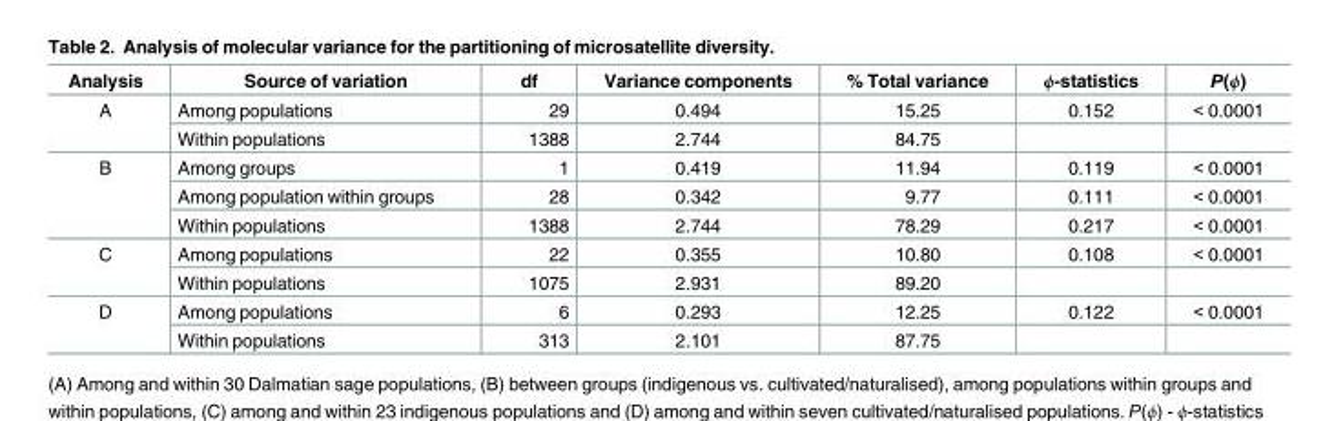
<table><thead><tr><td>Analysis</td><td>Source of variation</td><td>df</td><td>Variance components</td><td>% Total variance</td><td>ϕ-statistics</td><td>P(ϕ)</td></tr></thead><tbody><tr><td rowspan="2">A</td><td>Among populations</td><td>29</td><td>0.494</td><td>15.25</td><td>0.152</td><td>&lt; 0.0001</td></tr><tr><td>Within populations</td><td>1388</td><td>2.744</td><td>84.75</td><td></td><td></td></tr><tr><td rowspan="3">B</td><td>Among groups</td><td>1</td><td>0.419</td><td>11.94</td><td>0.119</td><td>&lt; 0.0001</td></tr><tr><td>Among population within groups</td><td>28</td><td>0.342</td><td>9.77</td><td>0.111</td><td>&lt; 0.0001</td></tr><tr><td>Within populations</td><td>1388</td><td>2.744</td><td>78.29</td><td>0.217</td><td>&lt; 0.0001</td></tr><tr><td rowspan="2">C</td><td>Among populations</td><td>22</td><td>0.355</td><td>10.80</td><td>0.108</td><td>&lt; 0.0001</td></tr><tr><td>Within populations</td><td>1075</td><td>2.931</td><td>89.20</td><td></td><td></td></tr><tr><td rowspan="2">D</td><td>Among populations</td><td>6</td><td>0.293</td><td>12.25</td><td>0.122</td><td>&lt; 0.0001</td></tr><tr><td>Within populations</td><td>313</td><td>2.101</td><td>87.75</td><td></td><td></td></tr></tbody></table>